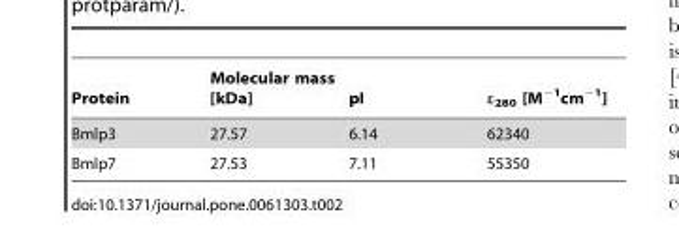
<table><thead><tr><td>Protein</td><td>Molecular mass [kDa]</td><td>pI</td><td>ε<sub>280</sub> [M<sup>−1</sup>cm<sup>−1</sup>]</td></tr></thead><tbody><tr><td>Bmlp3</td><td>27.57</td><td>6.14</td><td>62340</td></tr><tr><td>Bmlp7</td><td>27.53</td><td>7.11</td><td>55350</td></tr></tbody></table>